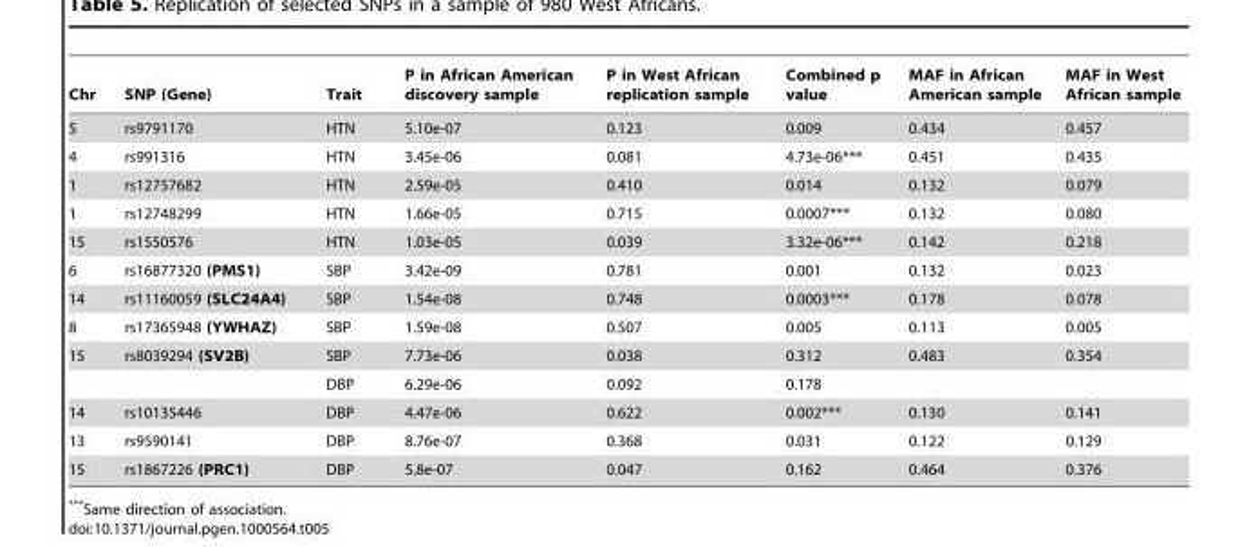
<table><thead><tr><td>Chr</td><td>SNP (Gene)</td><td>Trait</td><td>P in African American discovery sample</td><td>P in West African replication sample</td><td>Combined p value</td><td>MAF in African American sample</td><td>MAF in West African sample</td></tr></thead><tbody><tr><td>5</td><td>rs9791170</td><td>HTN</td><td>5.10e-07</td><td>0.123</td><td>0.009</td><td>0.434</td><td>0.457</td></tr><tr><td>4</td><td>rs991316</td><td>HTN</td><td>3.45e-06</td><td>0.081</td><td>4.73e-06***</td><td>0.451</td><td>0.435</td></tr><tr><td>1</td><td>rs12757682</td><td>HTN</td><td>2.59e-05</td><td>0.410</td><td>0.014</td><td>0.132</td><td>0.079</td></tr><tr><td>1</td><td>rs12748299</td><td>HTN</td><td>1.66e-05</td><td>0.715</td><td>0.0007***</td><td>0.132</td><td>0.080</td></tr><tr><td>15</td><td>rs1550576</td><td>HTN</td><td>1.03e-05</td><td>0.039</td><td>3.32e-06***</td><td>0.142</td><td>0.218</td></tr><tr><td>6</td><td>rs16877320 (PMS1)</td><td>SBP</td><td>3.42e-09</td><td>0.781</td><td>0.001</td><td>0.132</td><td>0.023</td></tr><tr><td>14</td><td>rs11160059 (SLC24A4)</td><td>SBP</td><td>1.54e-08</td><td>0.748</td><td>0.0003***</td><td>0.178</td><td>0.078</td></tr><tr><td>8</td><td>rs17365948 (YWHAZ)</td><td>SBP</td><td>1.59e-08</td><td>0.507</td><td>0.005</td><td>0.113</td><td>0.005</td></tr><tr><td rowspan="2">15</td><td>rs8039294 (SV2B)</td><td>SBP</td><td>7.73e-06</td><td>0.038</td><td>0.312</td><td>0.483</td><td>0.354</td></tr><tr><td></td><td>DBP</td><td>6.29e-06</td><td>0.092</td><td>0.178</td><td></td><td></td></tr><tr><td>14</td><td>rs10135446</td><td>DBP</td><td>4.47e-06</td><td>0.622</td><td>0.002***</td><td>0.130</td><td>0.141</td></tr><tr><td>13</td><td>rs9590141</td><td>DBP</td><td>8.76e-07</td><td>0.368</td><td>0.031</td><td>0.122</td><td>0.129</td></tr><tr><td>15</td><td>rs1867226 (PRC1)</td><td>DBP</td><td>5.8e-07</td><td>0.047</td><td>0.162</td><td>0.464</td><td>0.376</td></tr></tbody></table>